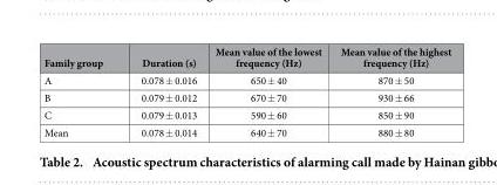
<table><thead><tr><td>Family group</td><td>Duration (s)</td><td>Mean value of the lowest frequency (Hz)</td><td>Mean value of the highest frequency (Hz)</td></tr></thead><tbody><tr><td>A</td><td>0.078 ± 0.016</td><td>650 ± 40</td><td>870 ± 50</td></tr><tr><td>B</td><td>0.079 ± 0.012</td><td>670 ± 70</td><td>930 ± 66</td></tr><tr><td>C</td><td>0.079 ± 0.013</td><td>590 ± 60</td><td>850 ± 90</td></tr><tr><td>Mean</td><td>0.078 ± 0.014</td><td>640 ± 70</td><td>880 ± 80</td></tr></tbody></table>